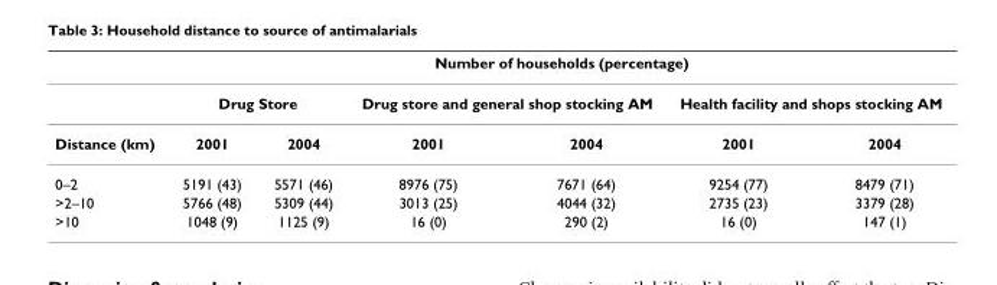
<table><thead><tr><td rowspan="3">Distance (km)</td><td colspan="6">Number of households (percentage)</td></tr><tr><td colspan="2">Drug Store</td><td colspan="2">Drug store and general shop stocking AM</td><td colspan="2">Health facility and shops stocking AM</td></tr><tr><td>2001</td><td>2004</td><td>2001</td><td>2004</td><td>2001</td><td>2004</td></tr></thead><tbody><tr><td>0–2</td><td>5191 (43)</td><td>5571 (46)</td><td>8976 (75)</td><td>7671 (64)</td><td>9254 (77)</td><td>8479 (71)</td></tr><tr><td>&gt;2–10</td><td>5766 (48)</td><td>5309 (44)</td><td>3013 (25)</td><td>4044 (32)</td><td>2735 (23)</td><td>3379 (28)</td></tr><tr><td>&gt;10</td><td>1048 (9)</td><td>1125 (9)</td><td>16 (0)</td><td>290 (2)</td><td>16 (0)</td><td>147 (1)</td></tr></tbody></table>